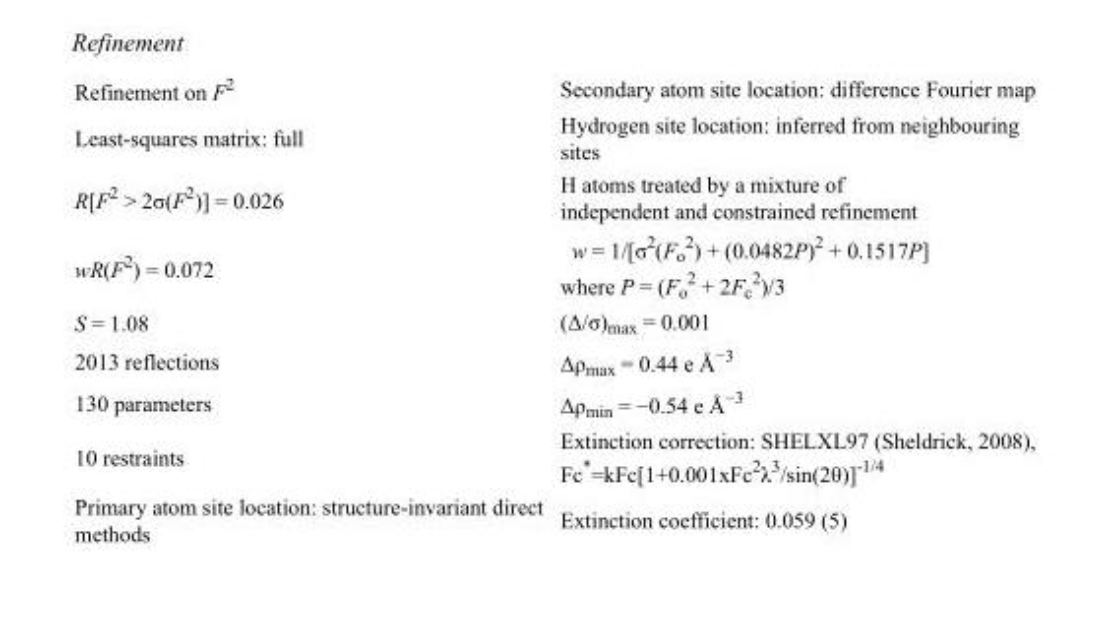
<table><tbody><tr><td>Refinement on F<sup>2</sup></td><td>Secondary atom site location: difference Fourier map</td></tr><tr><td>Least-squares matrix: full</td><td>Hydrogen site location: inferred from neighbouring sites</td></tr><tr><td>R[F<sup>2</sup> &gt; 2σ(F<sup>2</sup>)] = 0.026</td><td>H atoms treated by a mixture of independent and constrained refinement</td></tr><tr><td>wR(F<sup>2</sup>) = 0.072</td><td>w = 1/[σ<sup>2</sup>(F<sub>o</sub> <sup>2</sup>) + (0.0482P)<sup>2</sup> + 0.1517P] where P = (F<sub>o</sub> <sup>2</sup> + 2F<sub>c</sub> <sup>2</sup>)/3</td></tr><tr><td>S = 1.08</td><td>(Δ/σ)<sub>max</sub> = 0.001</td></tr><tr><td>2013 reflections</td><td>Δρ<sub>max</sub> = 0.44 e Å<sup>−3</sup></td></tr><tr><td>130 parameters</td><td>Δρ<sub>min</sub> = −0.54 e Å<sup>−3</sup></td></tr><tr><td>10 restraints</td><td>Extinction correction: SHELXL97 (Sheldrick, 2008), Fc*=kFc[1+0.001xFc<sup>2</sup>λ<sup>3</sup>/sin(2θ)]<sup>-1/4</sup></td></tr><tr><td>Primary atom site location: structure-invariant direct methods</td><td>Extinction coefficient: 0.059 (5)</td></tr></tbody></table>